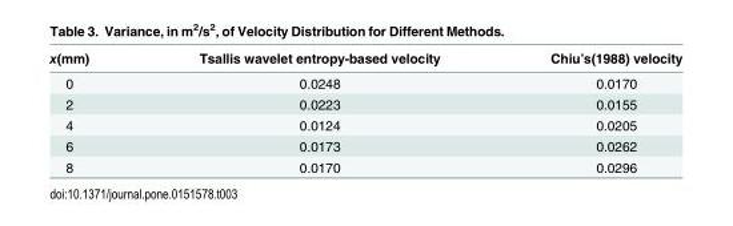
<table><thead><tr><td>x(mm)</td><td>Tsallis wavelet entropy-based velocity</td><td>Chiu’s(1988) velocity</td></tr></thead><tbody><tr><td>0</td><td>0.0248</td><td>0.0170</td></tr><tr><td>2</td><td>0.0223</td><td>0.0155</td></tr><tr><td>4</td><td>0.0124</td><td>0.0205</td></tr><tr><td>6</td><td>0.0173</td><td>0.0262</td></tr><tr><td>8</td><td>0.0170</td><td>0.0296</td></tr></tbody></table>